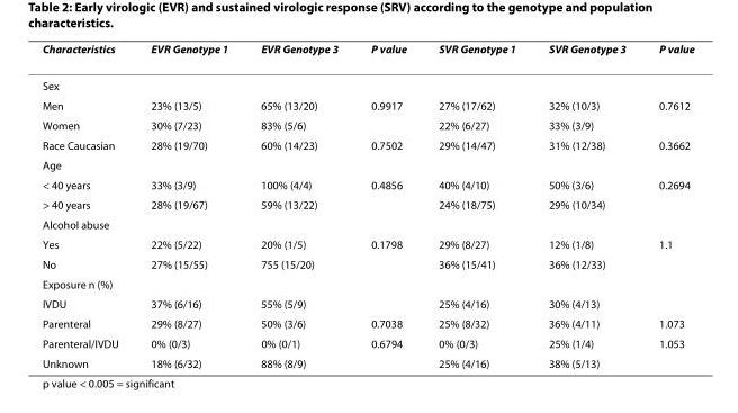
<table><thead><tr><td>Characteristics</td><td>EVR Genotype 1</td><td>EVR Genotype 3</td><td>P value</td><td>SVR Genotype 1</td><td>SVR Genotype 3</td><td>P value</td></tr></thead><tbody><tr><td colspan="7">Sex</td></tr><tr><td>Men</td><td>23% (13/5)</td><td>65% (13/20)</td><td>0.9917</td><td>27% (17/62)</td><td>32% (10/3)</td><td>0.7612</td></tr><tr><td>Women</td><td>30% (7/23)</td><td>83% (5/6)</td><td></td><td>22% (6/27)</td><td>33% (3/9)</td><td></td></tr><tr><td>Race Caucasian</td><td>28% (19/70)</td><td>60% (14/23)</td><td>0.7502</td><td>29% (14/47)</td><td>31% (12/38)</td><td>0.3662</td></tr><tr><td colspan="7">Age</td></tr><tr><td>&lt; 40 years</td><td>33% (3/9)</td><td>100% (4/4)</td><td>0.4856</td><td>40% (4/10)</td><td>50% (3/6)</td><td>0.2694</td></tr><tr><td>&gt; 40 years</td><td>28% (19/67)</td><td>59% (13/22)</td><td></td><td>24% (18/75)</td><td>29% (10/34)</td><td></td></tr><tr><td colspan="7">Alcohol abuse</td></tr><tr><td>Yes</td><td>22% (5/22)</td><td>20% (1/5)</td><td>0.1798</td><td>29% (8/27)</td><td>12% (1/8)</td><td>1.1</td></tr><tr><td>No</td><td>27% (15/55)</td><td>755 (15/20)</td><td></td><td>36% (15/41)</td><td>36% (12/33)</td><td></td></tr><tr><td colspan="7">Exposure n (%)</td></tr><tr><td>IVDU</td><td>37% (6/16)</td><td>55% (5/9)</td><td></td><td>25% (4/16)</td><td>30% (4/13)</td><td></td></tr><tr><td>Parenteral</td><td>29% (8/27)</td><td>50% (3/6)</td><td>0.7038</td><td>25% (8/32)</td><td>36% (4/11)</td><td>1.073</td></tr><tr><td>Parenteral/IVDU</td><td>0% (0/3)</td><td>0% (0/1)</td><td>0.6794</td><td>0% (0/3)</td><td>25% (1/4)</td><td>1.053</td></tr><tr><td>Unknown</td><td>18% (6/32)</td><td>88% (8/9)</td><td></td><td>25% (4/16)</td><td>38% (5/13)</td><td></td></tr></tbody></table>